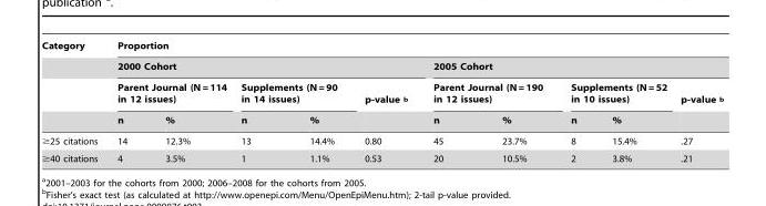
<table><thead><tr><td rowspan="4">Category</td><td colspan="10">Proportion</td></tr><tr><td colspan="5">2000 Cohort</td><td colspan="5">2005 Cohort</td></tr><tr><td colspan="2">Parent Journal (N = 114 in 12 issues)</td><td colspan="2">Supplements (N = 90 in 14 issues)</td><td rowspan="2">p-value b</td><td colspan="2">Parent Journal (N = 190 in 12 issues)</td><td colspan="2">Supplements (N = 52 in 10 issues)</td><td rowspan="2">p-value b</td></tr><tr><td>n</td><td>%</td><td>n</td><td>%</td><td>n</td><td>%</td><td>n</td><td>%</td></tr></thead><tbody><tr><td>≥25 citations</td><td>14</td><td>12.3%</td><td>13</td><td>14.4%</td><td>0.80</td><td>45</td><td>23.7%</td><td>8</td><td>15.4%</td><td>.27</td></tr><tr><td>≥40 citations</td><td>4</td><td>3.5%</td><td>1</td><td>1.1%</td><td>0.53</td><td>20</td><td>10.5%</td><td>2</td><td>3.8%</td><td>.21</td></tr></tbody></table>